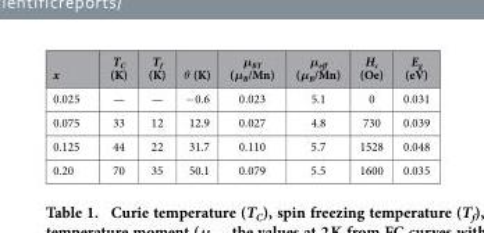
<table><thead><tr><td>x</td><td>T<sub>C</sub> (K)</td><td>T<sub>f</sub> (K)</td><td>θ (K)</td><td>μ<sub>BT</sub> (μ<sub>B</sub>/Mn)</td><td>μ<sub>eff</sub> (μ<sub>B</sub>/Mn)</td><td>H<sub>c</sub> (Oe)</td><td>E<sub>g</sub> (eV)</td></tr></thead><tbody><tr><td>0.025</td><td>—</td><td>—</td><td>− 0.6</td><td>0.023</td><td>5.1</td><td>0</td><td>0.031</td></tr><tr><td>0.075</td><td>33</td><td>12</td><td>12.9</td><td>0.027</td><td>4.8</td><td>730</td><td>0.039</td></tr><tr><td>0.125</td><td>44</td><td>22</td><td>31.7</td><td>0.110</td><td>5.7</td><td>1528</td><td>0.048</td></tr><tr><td>0.20</td><td>70</td><td>35</td><td>50.1</td><td>0.079</td><td>5.5</td><td>1600</td><td>0.035</td></tr></tbody></table>